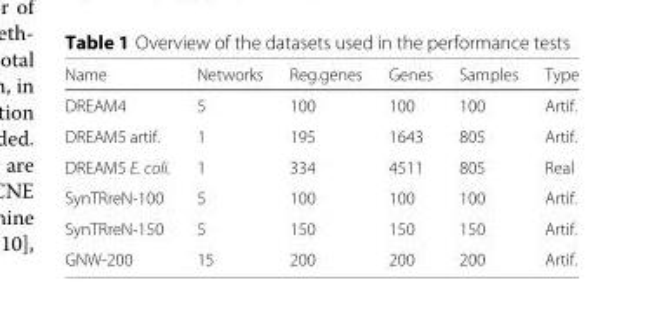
<table><thead><tr><td>Name</td><td>Networks</td><td>Reg.genes</td><td>Genes</td><td>Samples</td><td>Type</td></tr></thead><tbody><tr><td>DREAM4</td><td>5</td><td>100</td><td>100</td><td>100</td><td>Artif.</td></tr><tr><td>DREAM5 artif.</td><td>1</td><td>195</td><td>1643</td><td>805</td><td>Artif.</td></tr><tr><td>DREAM5 E. coli.</td><td>1</td><td>334</td><td>4511</td><td>805</td><td>Real</td></tr><tr><td>SynTRreN-100</td><td>5</td><td>100</td><td>100</td><td>100</td><td>Artif.</td></tr><tr><td>SynTRreN-150</td><td>5</td><td>150</td><td>150</td><td>150</td><td>Artif.</td></tr><tr><td>GNW-200</td><td>15</td><td>200</td><td>200</td><td>200</td><td>Artif.</td></tr></tbody></table>